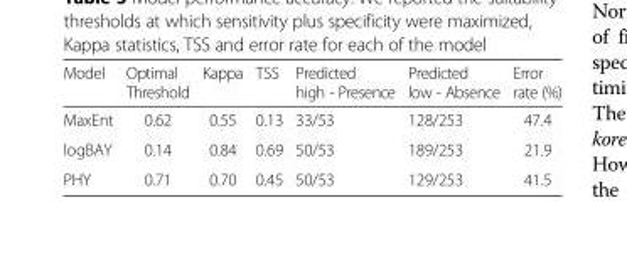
<table><thead><tr><td>Model</td><td>Optimal Threshold</td><td>Kappa</td><td>TSS</td><td>Predicted high - Presence</td><td>Predicted low - Absence</td><td>Error rate (%)</td></tr></thead><tbody><tr><td>MaxEnt</td><td>0.62</td><td>0.55</td><td>0.13</td><td>33/53</td><td>128/253</td><td>47.4</td></tr><tr><td>logBAY</td><td>0.14</td><td>0.84</td><td>0.69</td><td>50/53</td><td>189/253</td><td>21.9</td></tr><tr><td>PHY</td><td>0.71</td><td>0.70</td><td>0.45</td><td>50/53</td><td>129/253</td><td>41.5</td></tr></tbody></table>